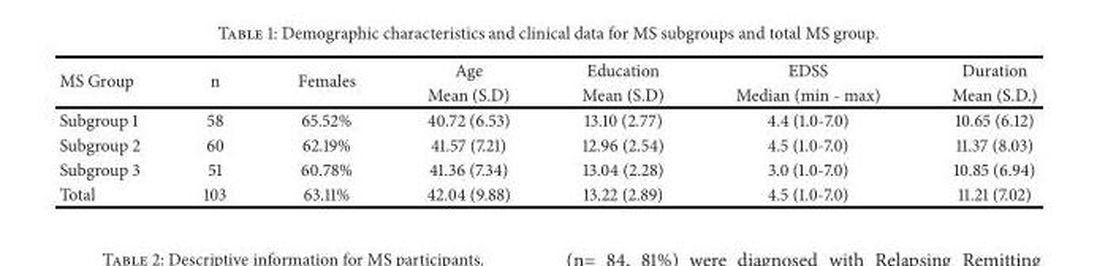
<table><thead><tr><td rowspan="2">MS Group</td><td rowspan="2">n</td><td rowspan="2">Females</td><td rowspan="2">Age Mean (S.D)</td><td rowspan="2">Education Mean (S.D)</td><td rowspan="2">EDSS Median (min - max)</td><td rowspan="2">Duration Mean (S.D.)</td></tr><tr></tr></thead><tbody><tr><td>Subgroup 1</td><td>58</td><td>65.52%</td><td>40.72 (6.53)</td><td>13.10 (2.77)</td><td>4.4 (1.0-7.0)</td><td>10.65 (6.12)</td></tr><tr><td>Subgroup 2</td><td>60</td><td>62.19%</td><td>41.57 (7.21)</td><td>12.96 (2.54)</td><td>4.5 (1.0-7.0)</td><td>11.37 (8.03)</td></tr><tr><td>Subgroup 3</td><td>51</td><td>60.78%</td><td>41.36 (7.34)</td><td>13.04 (2.28)</td><td>3.0 (1.0-7.0)</td><td>10.85 (6.94)</td></tr><tr><td>Total</td><td>103</td><td>63.11%</td><td>42.04 (9.88)</td><td>13.22 (2.89)</td><td>4.5 (1.0-7.0)</td><td>11.21 (7.02)</td></tr></tbody></table>